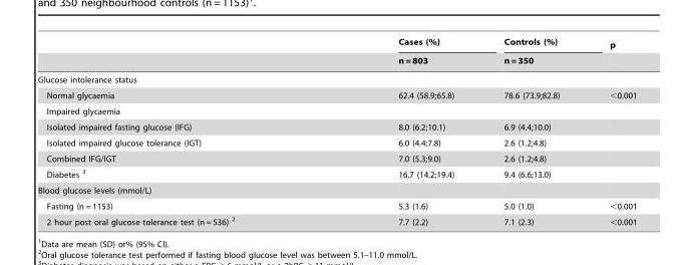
<table><thead><tr><td rowspan="2"></td><td rowspan="2">Cases (%) n = 803</td><td rowspan="2">Controls (%) n = 350</td><td rowspan="2">p</td></tr><tr></tr></thead><tbody><tr><td colspan="4">Glucose intolerance status</td></tr><tr><td>Normal glycaemia</td><td>62.4 (58.9;65.8)</td><td>78.6 (73.9;82.8)</td><td>&lt;0.001</td></tr><tr><td colspan="4">Impaired glycaemia</td></tr><tr><td>Isolated impaired fasting glucose (IFG)</td><td>8.0 (6.2;10.1)</td><td>6.9 (4.4;10.0)</td><td></td></tr><tr><td>Isolated impaired glucose tolerance (IGT)</td><td>6.0 (4.4;7.8)</td><td>2.6 (1.2;4.8)</td><td></td></tr><tr><td>Combined IFG/IGT</td><td>7.0 (5.3;9.0)</td><td>2.6 (1.2;4.8)</td><td></td></tr><tr><td>Diabetes 3</td><td>16.7 (14.2;19.4)</td><td>9.4 (6.6;13.0)</td><td></td></tr><tr><td colspan="4">Blood glucose levels (mmol/L)</td></tr><tr><td>Fasting (n = 1153)</td><td>5.3 (1.6)</td><td>5.0 (1.0)</td><td>&lt;0.001</td></tr><tr><td>2 hour post oral glucose tolerance test (n = 536) 2</td><td>7.7 (2.2)</td><td>7.1 (2.3)</td><td>&lt;0.001</td></tr></tbody></table>